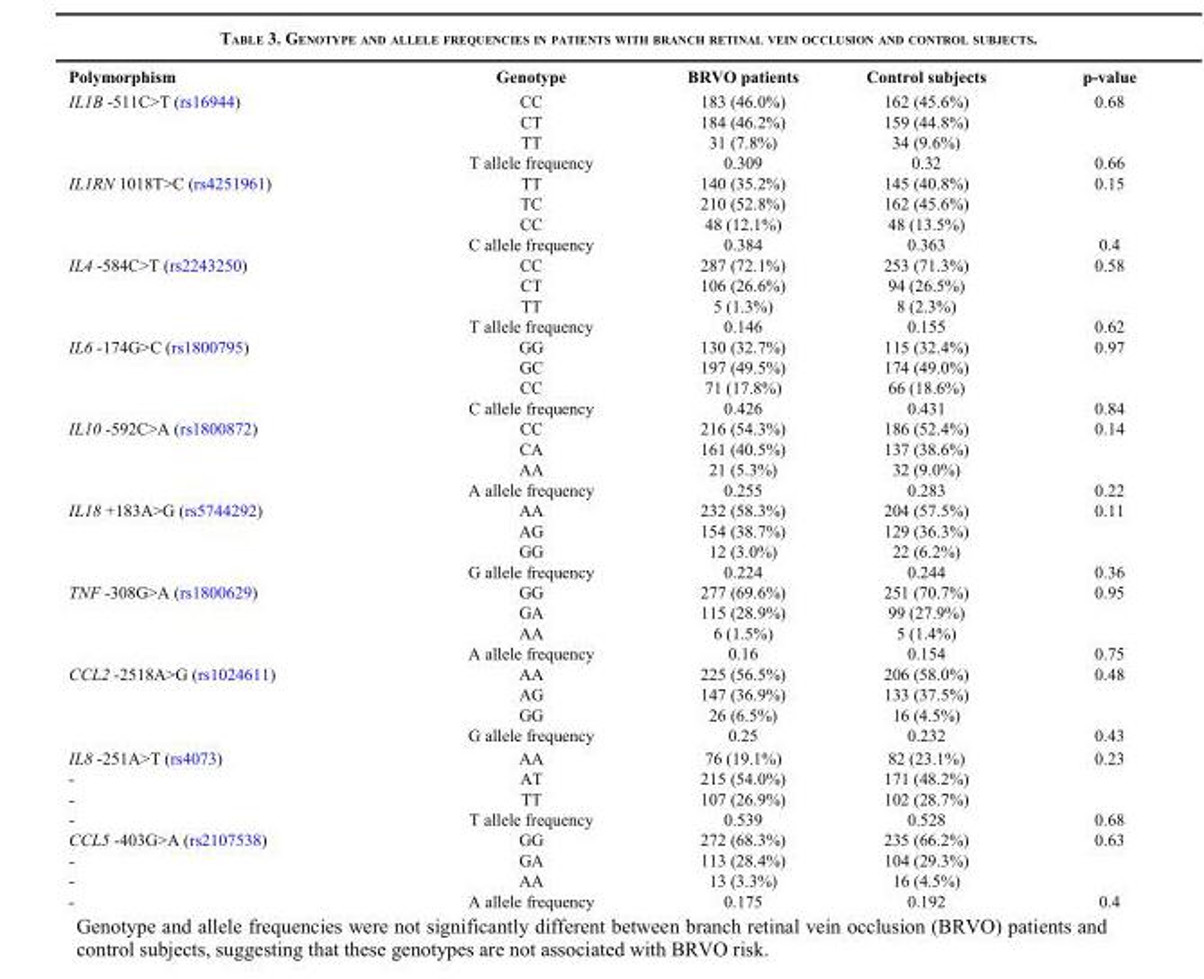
<table><thead><tr><td>Polymorphism</td><td>Genotype</td><td>BRVO patients</td><td>Control subjects</td><td>p-value</td></tr></thead><tbody><tr><td rowspan="4">IL1B -511C&gt;T (rs16944)</td><td>CC</td><td>183 (46.0%)</td><td>162 (45.6%)</td><td rowspan="3">0.68</td></tr><tr><td>CT</td><td>184 (46.2%)</td><td>159 (44.8%)</td></tr><tr><td>TT</td><td>31 (7.8%)</td><td>34 (9.6%)</td></tr><tr><td>T allele frequency</td><td>0.309</td><td>0.32</td><td>0.66</td></tr><tr><td rowspan="4">IL1RN 1018T&gt;C (rs4251961)</td><td>TT</td><td>140 (35.2%)</td><td>145 (40.8%)</td><td rowspan="3">0.15</td></tr><tr><td>TC</td><td>210 (52.8%)</td><td>162 (45.6%)</td></tr><tr><td>CC</td><td>48 (12.1%)</td><td>48 (13.5%)</td></tr><tr><td>C allele frequency</td><td>0.384</td><td>0.363</td><td>0.4</td></tr><tr><td rowspan="4">IL4 -584C&gt;T (rs2243250)</td><td>CC</td><td>287 (72.1%)</td><td>253 (71.3%)</td><td rowspan="3">0.58</td></tr><tr><td>CT</td><td>106 (26.6%)</td><td>94 (26.5%)</td></tr><tr><td>TT</td><td>5 (1.3%)</td><td>8 (2.3%)</td></tr><tr><td>T allele frequency</td><td>0.146</td><td>0.155</td><td>0.62</td></tr><tr><td rowspan="4">IL6 -174G&gt;C (rs1800795)</td><td>GG</td><td>130 (32.7%)</td><td>115 (32.4%)</td><td rowspan="3">0.97</td></tr><tr><td>GC</td><td>197 (49.5%)</td><td>174 (49.0%)</td></tr><tr><td>CC</td><td>71 (17.8%)</td><td>66 (18.6%)</td></tr><tr><td>C allele frequency</td><td>0.426</td><td>0.431</td><td>0.84</td></tr><tr><td rowspan="4">IL10 -592C&gt;A (rs1800872)</td><td>CC</td><td>216 (54.3%)</td><td>186 (52.4%)</td><td rowspan="3">0.14</td></tr><tr><td>CA</td><td>161 (40.5%)</td><td>137 (38.6%)</td></tr><tr><td>AA</td><td>21 (5.3%)</td><td>32 (9.0%)</td></tr><tr><td>A allele frequency</td><td>0.255</td><td>0.283</td><td>0.22</td></tr><tr><td rowspan="4">IL18 +183A&gt;G (rs5744292)</td><td>AA</td><td>232 (58.3%)</td><td>204 (57.5%)</td><td rowspan="3">0.11</td></tr><tr><td>AG</td><td>154 (38.7%)</td><td>129 (36.3%)</td></tr><tr><td>GG</td><td>12 (3.0%)</td><td>22 (6.2%)</td></tr><tr><td>G allele frequency</td><td>0.224</td><td>0.244</td><td>0.36</td></tr><tr><td rowspan="4">TNF -308G&gt;A (rs1800629)</td><td>GG</td><td>277 (69.6%)</td><td>251 (70.7%)</td><td rowspan="3">0.95</td></tr><tr><td>GA</td><td>115 (28.9%)</td><td>99 (27.9%)</td></tr><tr><td>AA</td><td>6 (1.5%)</td><td>5 (1.4%)</td></tr><tr><td>A allele frequency</td><td>0.16</td><td>0.154</td><td>0.75</td></tr><tr><td rowspan="4">CCL2 -2518A&gt;G (rs1024611)</td><td>AA</td><td>225 (56.5%)</td><td>206 (58.0%)</td><td rowspan="3">0.48</td></tr><tr><td>AG</td><td>147 (36.9%)</td><td>133 (37.5%)</td></tr><tr><td>GG</td><td>26 (6.5%)</td><td>16 (4.5%)</td></tr><tr><td>G allele frequency</td><td>0.25</td><td>0.232</td><td>0.43</td></tr><tr><td rowspan="4">IL8 -251A&gt;T (rs4073) - - -</td><td>AA</td><td>76 (19.1%)</td><td>82 (23.1%)</td><td rowspan="3">0.23</td></tr><tr><td>AT</td><td>215 (54.0%)</td><td>171 (48.2%)</td></tr><tr><td>TT</td><td>107 (26.9%)</td><td>102 (28.7%)</td></tr><tr><td>T allele frequency</td><td>0.539</td><td>0.528</td><td>0.68</td></tr><tr><td rowspan="4">CCL5 -403G&gt;A (rs2107538) - - -</td><td>GG</td><td>272 (68.3%)</td><td>235 (66.2%)</td><td rowspan="3">0.63</td></tr><tr><td>GA</td><td>113 (28.4%)</td><td>104 (29.3%)</td></tr><tr><td>AA</td><td>13 (3.3%)</td><td>16 (4.5%)</td></tr><tr><td>A allele frequency</td><td>0.175</td><td>0.192</td><td>0.4</td></tr></tbody></table>